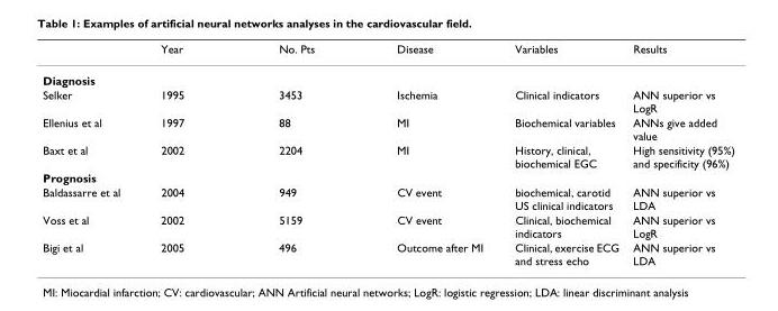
<table><thead><tr><td></td><td>Year</td><td>No. Pts</td><td>Disease</td><td>Variables</td><td>Results</td></tr></thead><tbody><tr><td colspan="6">Diagnosis</td></tr><tr><td>Selker</td><td>1995</td><td>3453</td><td>Ischemia</td><td>Clinical indicators</td><td>ANN superior vs LogR</td></tr><tr><td>Ellenius et al</td><td>1997</td><td>88</td><td>MI</td><td>Biochemical variables</td><td>ANNs give added value</td></tr><tr><td>Baxt et al</td><td>2002</td><td>2204</td><td>MI</td><td>History, clinical, biochemical EGC</td><td>High sensitivity (95%) and specificity (96%)</td></tr><tr><td colspan="6">Prognosis</td></tr><tr><td>Baldassarre et al</td><td>2004</td><td>949</td><td>CV event</td><td>biochemical, carotid US clinical indicators</td><td>ANN superior vs LDA</td></tr><tr><td>Voss et al</td><td>2002</td><td>5159</td><td>CV event</td><td>Clinical, biochemical indicators</td><td>ANN superior vs LogR</td></tr><tr><td>Bigi et al</td><td>2005</td><td>496</td><td>Outcome after MI</td><td>Clinical, exercise ECG and stress echo</td><td>ANN superior vs LDA</td></tr></tbody></table>